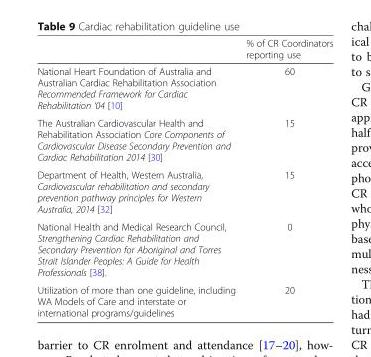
<table><thead><tr><td></td><td>% of CR Coordinators reporting use</td></tr></thead><tbody><tr><td>National Heart Foundation of Australia and Australian Cardiac Rehabilitation Association Recommended Framework for Cardiac Rehabilitation ‘04 [10]</td><td>60</td></tr><tr><td>The Australian Cardiovascular Health and Rehabilitation Association Core Components of Cardiovascular Disease Secondary Prevention and Cardiac Rehabilitation 2014 [30]</td><td>15</td></tr><tr><td>Department of Health, Western Australia, Cardiovascular rehabilitation and secondary prevention pathway principles for Western Australia, 2014 [32]</td><td>15</td></tr><tr><td>National Health and Medical Research Council, Strengthening Cardiac Rehabilitation and Secondary Prevention for Aboriginal and Torres Strait Islander Peoples: A Guide for Health Professionals [38].</td><td>0</td></tr><tr><td>Utilization of more than one guideline, including WA Models of Care and interstate or international programs/guidelines</td><td>20</td></tr></tbody></table>